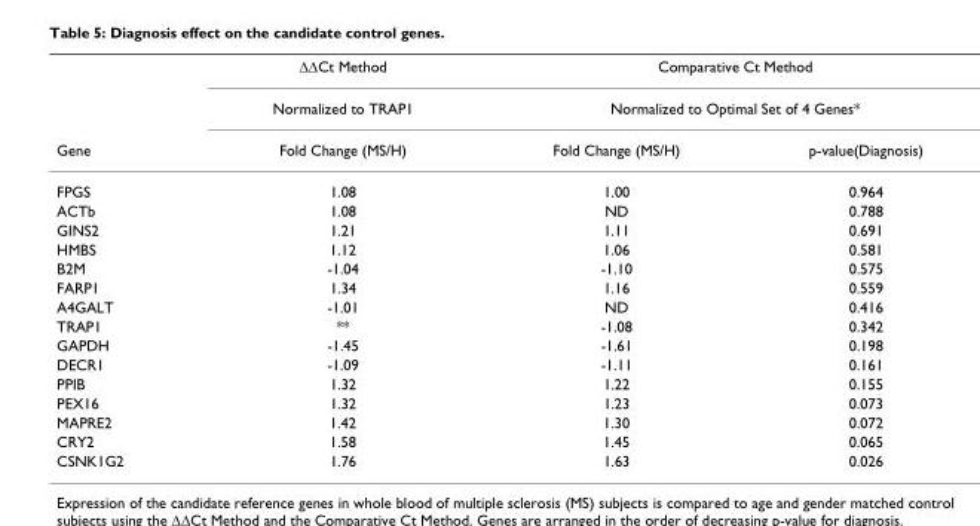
<table><thead><tr><td rowspan="3">Gene</td><td rowspan="3">ΔΔCt Method Normalized to TRAP1 Fold Change (MS/H)</td><td rowspan="2" colspan="2">Comparative Ct Method Normalized to Optimal Set of 4 Genes*</td></tr><tr></tr><tr><td>Fold Change (MS/H)</td><td>p-value(Diagnosis)</td></tr></thead><tbody><tr><td>FPGS</td><td>1.08</td><td>1.00</td><td>0.964</td></tr><tr><td>ACTb</td><td>1.08</td><td>ND</td><td>0.788</td></tr><tr><td>GINS2</td><td>1.21</td><td>1.11</td><td>0.691</td></tr><tr><td>HMBS</td><td>1.12</td><td>1.06</td><td>0.581</td></tr><tr><td>B2M</td><td>-1.04</td><td>-1.10</td><td>0.575</td></tr><tr><td>FARP1</td><td>1.34</td><td>1.16</td><td>0.559</td></tr><tr><td>A4GALT</td><td>-1.01</td><td>ND</td><td>0.416</td></tr><tr><td>TRAP1</td><td>**</td><td>-1.08</td><td>0.342</td></tr><tr><td>GAPDH</td><td>-1.45</td><td>-1.61</td><td>0.198</td></tr><tr><td>DECR1</td><td>-1.09</td><td>-1.11</td><td>0.161</td></tr><tr><td>PPIB</td><td>1.32</td><td>1.22</td><td>0.155</td></tr><tr><td>PEX16</td><td>1.32</td><td>1.23</td><td>0.073</td></tr><tr><td>MAPRE2</td><td>1.42</td><td>1.30</td><td>0.072</td></tr><tr><td>CRY2</td><td>1.58</td><td>1.45</td><td>0.065</td></tr><tr><td>CSNK1G2</td><td>1.76</td><td>1.63</td><td>0.026</td></tr></tbody></table>